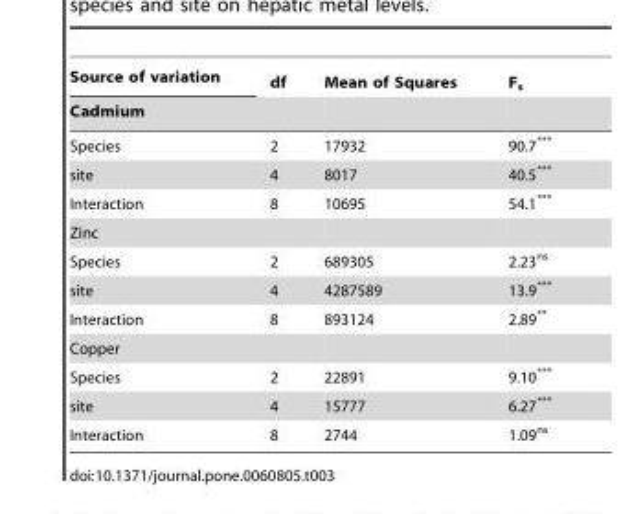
<table><thead><tr><td rowspan="2">Source of variation Cadmium</td><td rowspan="2">df</td><td rowspan="2">Mean of Squares</td><td rowspan="2">F<sub>s</sub></td></tr><tr></tr></thead><tbody><tr><td>Species</td><td>2</td><td>17932</td><td>90.7***</td></tr><tr><td>site</td><td>4</td><td>8017</td><td>40.5***</td></tr><tr><td>Interaction</td><td>8</td><td>10695</td><td>54.1***</td></tr><tr><td colspan="4">Zinc</td></tr><tr><td>Species</td><td>2</td><td>689305</td><td>2.23<sup>ns</sup></td></tr><tr><td>site</td><td>4</td><td>4287589</td><td>13.9***</td></tr><tr><td>Interaction</td><td>8</td><td>893124</td><td>2.89**</td></tr><tr><td colspan="4">Copper</td></tr><tr><td>Species</td><td>2</td><td>22891</td><td>9.10***</td></tr><tr><td>site</td><td>4</td><td>15777</td><td>6.27***</td></tr><tr><td>Interaction</td><td>8</td><td>2744</td><td>1.09<sup>ns</sup></td></tr></tbody></table>